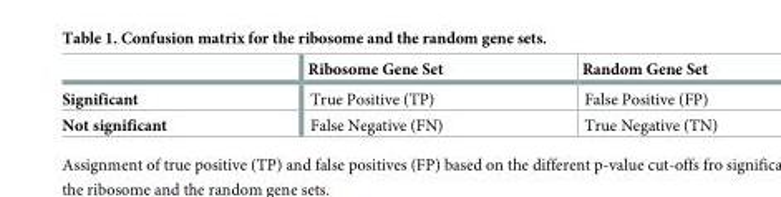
<table><thead><tr><td></td><td>Ribosome Gene Set</td><td>Random Gene Set</td></tr></thead><tbody><tr><td>Significant</td><td>True Positive (TP)</td><td>False Positive (FP)</td></tr><tr><td>Not significant</td><td>False Negative (FN)</td><td>True Negative (TN)</td></tr></tbody></table>